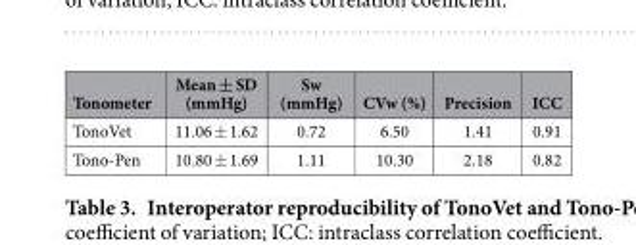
<table><thead><tr><td>Tonometer</td><td>Mean ± SD (mmHg)</td><td>Sw (mmHg)</td><td>CVw (%)</td><td>Precision</td><td>ICC</td></tr></thead><tbody><tr><td>TonoVet</td><td>11.06 ± 1.62</td><td>0.72</td><td>6.50</td><td>1.41</td><td>0.91</td></tr><tr><td>Tono-Pen</td><td>10.80 ± 1.69</td><td>1.11</td><td>10.30</td><td>2.18</td><td>0.82</td></tr></tbody></table>